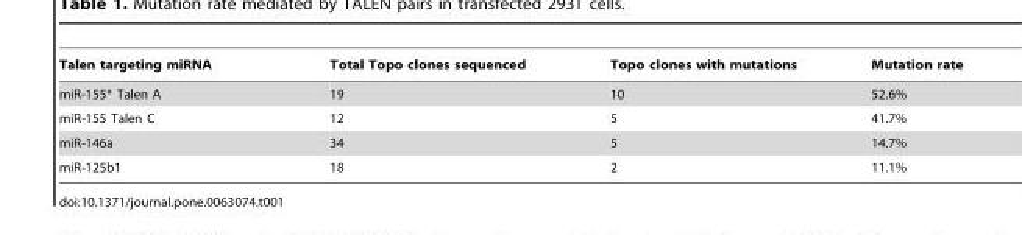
<table><thead><tr><td>Talen targeting miRNA</td><td>Total Topo clones sequenced</td><td>Topo clones with mutations</td><td>Mutation rate</td></tr></thead><tbody><tr><td>miR-155* Talen A</td><td>19</td><td>10</td><td>52.6%</td></tr><tr><td>miR-155 Talen C</td><td>12</td><td>5</td><td>41.7%</td></tr><tr><td>miR-146a</td><td>34</td><td>5</td><td>14.7%</td></tr><tr><td>miR-125b1</td><td>18</td><td>2</td><td>11.1%</td></tr></tbody></table>